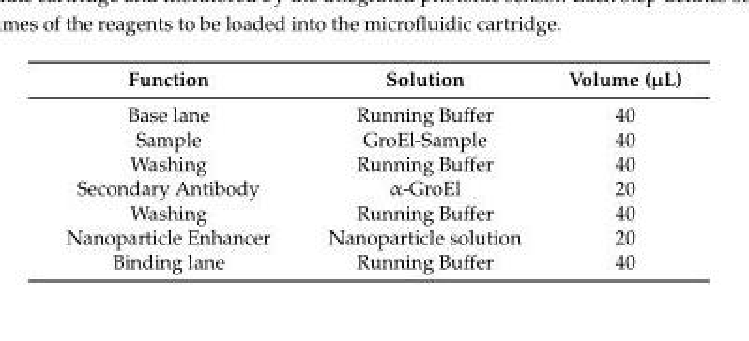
<table><thead><tr><td>Function</td><td>Solution</td><td>Volume (µL)</td></tr></thead><tbody><tr><td>Base lane</td><td>Running Buffer</td><td>40</td></tr><tr><td>Sample</td><td>GroEl-Sample</td><td>40</td></tr><tr><td>Washing</td><td>Running Buffer</td><td>40</td></tr><tr><td>Secondary Antibody</td><td>α-GroEl</td><td>20</td></tr><tr><td>Washing</td><td>Running Buffer</td><td>40</td></tr><tr><td>Nanoparticle Enhancer</td><td>Nanoparticle solution</td><td>20</td></tr><tr><td>Binding lane</td><td>Running Buffer</td><td>40</td></tr></tbody></table>